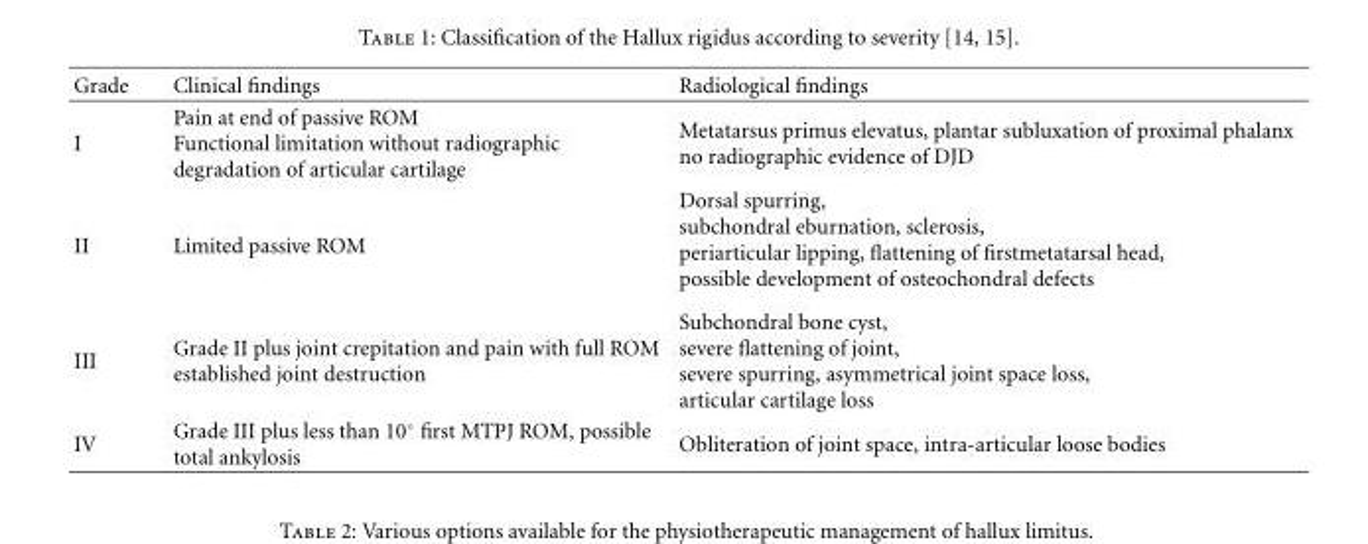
<table><thead><tr><td>Grade</td><td>Clinical findings</td><td>Radiological findings</td></tr></thead><tbody><tr><td>I</td><td>Pain at end of passive ROM Functional limitation without radiographic degradation of articular cartilage</td><td>Metatarsus primus elevatus, plantar subluxation of proximal phalanx no radiographic evidence of DJD</td></tr><tr><td>II</td><td>Limited passive ROM</td><td>Dorsal spurring, subchondral eburnation, sclerosis, periarticular lipping, flattening of firstmetatarsal head, possible development of osteochondral defects</td></tr><tr><td>III</td><td>Grade II plus joint crepitation and pain with full ROM established joint destruction</td><td>Subchondral bone cyst, severe flattening of joint, severe spurring, asymmetrical joint space loss, articular cartilage loss</td></tr><tr><td>IV</td><td>Grade III plus less than 10◦ first MTPJ ROM, possible total ankylosis</td><td>Obliteration of joint space, intra-articular loose bodies</td></tr></tbody></table>